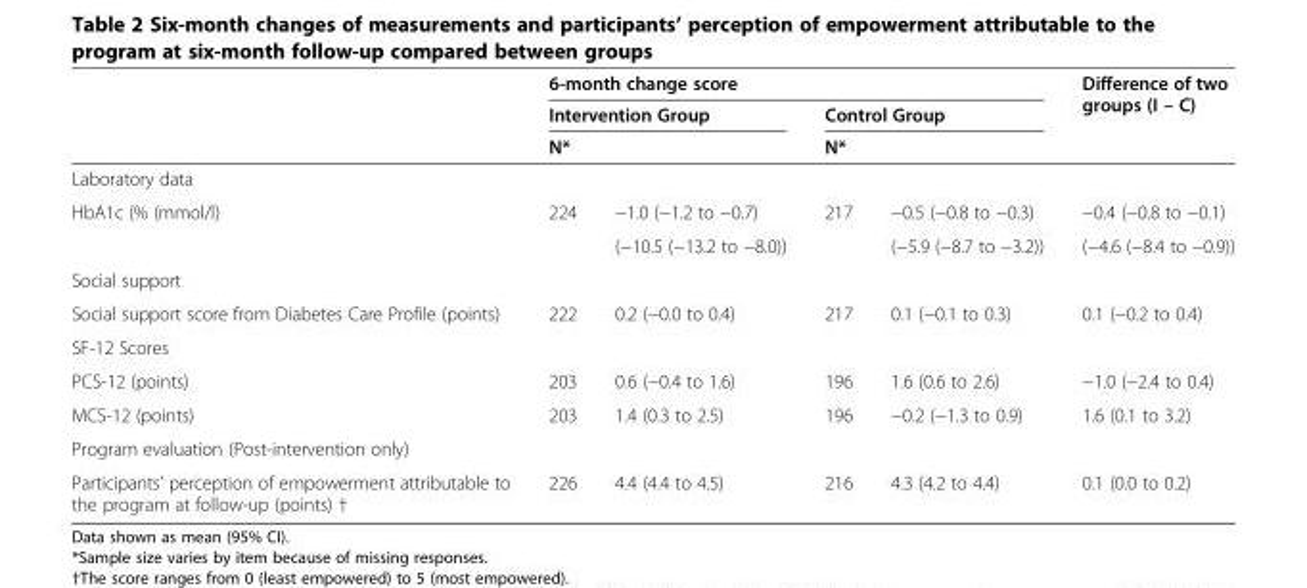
<table><thead><tr><td rowspan="3"></td><td colspan="4">6-month change score</td><td rowspan="3">Difference of two groups (I – C)</td></tr><tr><td colspan="2">Intervention Group</td><td colspan="2">Control Group</td></tr><tr><td>N*</td><td></td><td>N*</td><td></td></tr></thead><tbody><tr><td colspan="6">Laboratory data</td></tr><tr><td rowspan="2">HbA1c (% (mmol/l)</td><td rowspan="2">224</td><td>−1.0 (−1.2 to −0.7)</td><td>217</td><td>−0.5 (−0.8 to −0.3)</td><td>−0.4 (−0.8 to −0.1)</td></tr><tr><td>(−10.5 (−13.2 to −8.0))</td><td></td><td>(−5.9 (−8.7 to −3.2))</td><td>(−4.6 (−8.4 to −0.9))</td></tr><tr><td colspan="6">Social support</td></tr><tr><td>Social support score from Diabetes Care Profile (points)</td><td>222</td><td>0.2 (−0.0 to 0.4)</td><td>217</td><td>0.1 (−0.1 to 0.3)</td><td>0.1 (−0.2 to 0.4)</td></tr><tr><td colspan="6">SF-12 Scores</td></tr><tr><td>PCS-12 (points)</td><td>203</td><td>0.6 (−0.4 to 1.6)</td><td>196</td><td>1.6 (0.6 to 2.6)</td><td>−1.0 (−2.4 to 0.4)</td></tr><tr><td>MCS-12 (points)</td><td>203</td><td>1.4 (0.3 to 2.5)</td><td>196</td><td>−0.2 (−1.3 to 0.9)</td><td>1.6 (0.1 to 3.2)</td></tr><tr><td colspan="6">Program evaluation (Post-intervention only)</td></tr><tr><td>Participants’ perception of empowerment attributable to the program at follow-up (points) †</td><td>226</td><td>4.4 (4.4 to 4.5)</td><td>216</td><td>4.3 (4.2 to 4.4)</td><td>0.1 (0.0 to 0.2)</td></tr></tbody></table>